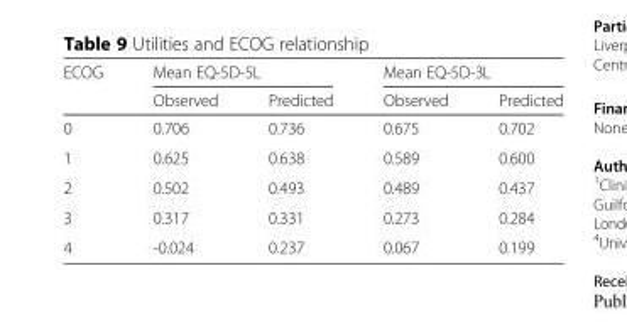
<table><thead><tr><td rowspan="2">ECOG</td><td colspan="2">Mean EQ-5D-5L</td><td colspan="2">Mean EQ-5D-3L</td></tr><tr><td>Observed</td><td>Predicted</td><td>Observed</td><td>Predicted</td></tr></thead><tbody><tr><td>0</td><td>0.706</td><td>0.736</td><td>0.675</td><td>0.702</td></tr><tr><td>1</td><td>0.625</td><td>0.638</td><td>0.589</td><td>0.600</td></tr><tr><td>2</td><td>0.502</td><td>0.493</td><td>0.489</td><td>0.437</td></tr><tr><td>3</td><td>0.317</td><td>0.331</td><td>0.273</td><td>0.284</td></tr><tr><td>4</td><td>-0.024</td><td>0.237</td><td>0.067</td><td>0.199</td></tr></tbody></table>